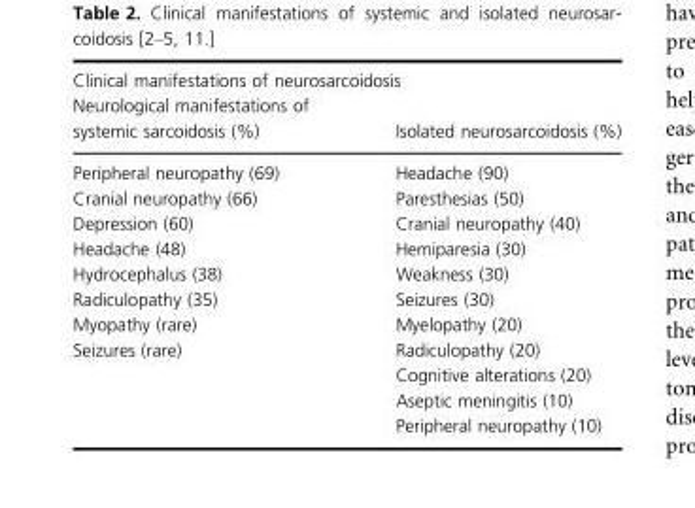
<table><thead><tr><td colspan="2">Clinical manifestations of neurosarcoidosis</td></tr><tr><td>Neurological manifestations of systemic sarcoidosis (%)</td><td>Isolated neurosarcoidosis (%)</td></tr></thead><tbody><tr><td>Peripheral neuropathy (69)</td><td>Headache (90)</td></tr><tr><td>Cranial neuropathy (66)</td><td>Paresthesias (50)</td></tr><tr><td>Depression (60)</td><td>Cranial neuropathy (40)</td></tr><tr><td>Headache (48)</td><td>Hemiparesia (30)</td></tr><tr><td>Hydrocephalus (38)</td><td>Weakness (30)</td></tr><tr><td>Radiculopathy (35)</td><td>Seizures (30)</td></tr><tr><td>Myopathy (rare)</td><td>Myelopathy (20)</td></tr><tr><td rowspan="4">Seizures (rare)</td><td>Radiculopathy (20)</td></tr><tr><td>Cognitive alterations (20)</td></tr><tr><td>Aseptic meningitis (10)</td></tr><tr><td>Peripheral neuropathy (10)</td></tr></tbody></table>